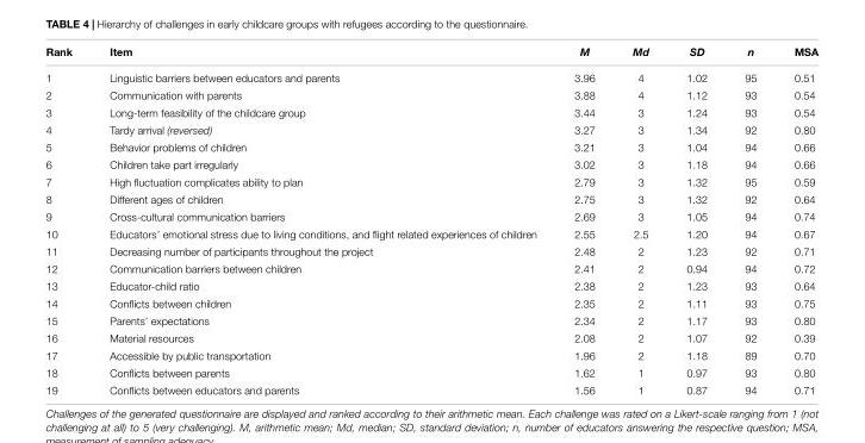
<table><thead><tr><td>Rank</td><td>Item</td><td>M</td><td>Md</td><td>SD</td><td>n</td><td>MSA</td></tr></thead><tbody><tr><td>1</td><td>Linguistic barriers between educators and parents</td><td>3.96</td><td>4</td><td>1.02</td><td>95</td><td>0.51</td></tr><tr><td>2</td><td>Communication with parents</td><td>3.88</td><td>4</td><td>1.12</td><td>93</td><td>0.54</td></tr><tr><td>3</td><td>Long-term feasibility of the childcare group</td><td>3.44</td><td>3</td><td>1.24</td><td>93</td><td>0.54</td></tr><tr><td>4</td><td>Tardy arrival (reversed)</td><td>3.27</td><td>3</td><td>1.34</td><td>92</td><td>0.80</td></tr><tr><td>5</td><td>Behavior problems of children</td><td>3.21</td><td>3</td><td>1.04</td><td>94</td><td>0.66</td></tr><tr><td>6</td><td>Children take part irregularly</td><td>3.02</td><td>3</td><td>1.18</td><td>94</td><td>0.66</td></tr><tr><td>7</td><td>High fluctuation complicates ability to plan</td><td>2.79</td><td>3</td><td>1.32</td><td>95</td><td>0.59</td></tr><tr><td>8</td><td>Different ages of children</td><td>2.75</td><td>3</td><td>1.32</td><td>92</td><td>0.64</td></tr><tr><td>9</td><td>Cross-cultural communication barriers</td><td>2.69</td><td>3</td><td>1.05</td><td>94</td><td>0.74</td></tr><tr><td>10</td><td>Educators’ emotional stress due to living conditions, and flight related experiences of children</td><td>2.55</td><td>2.5</td><td>1.20</td><td>94</td><td>0.67</td></tr><tr><td>11</td><td>Decreasing number of participants throughout the project</td><td>2.48</td><td>2</td><td>1.23</td><td>92</td><td>0.71</td></tr><tr><td>12</td><td>Communication barriers between children</td><td>2.41</td><td>2</td><td>0.94</td><td>94</td><td>0.72</td></tr><tr><td>13</td><td>Educator-child ratio</td><td>2.38</td><td>2</td><td>1.23</td><td>93</td><td>0.64</td></tr><tr><td>14</td><td>Conflicts between children</td><td>2.35</td><td>2</td><td>1.11</td><td>93</td><td>0.75</td></tr><tr><td>15</td><td>Parents’ expectations</td><td>2.34</td><td>2</td><td>1.17</td><td>93</td><td>0.80</td></tr><tr><td>16</td><td>Material resources</td><td>2.08</td><td>2</td><td>1.07</td><td>92</td><td>0.39</td></tr><tr><td>17</td><td>Accessible by public transportation</td><td>1.96</td><td>2</td><td>1.18</td><td>89</td><td>0.70</td></tr><tr><td>18</td><td>Conflicts between parents</td><td>1.62</td><td>1</td><td>0.97</td><td>93</td><td>0.80</td></tr><tr><td>19</td><td>Conflicts between educators and parents</td><td>1.56</td><td>1</td><td>0.87</td><td>94</td><td>0.71</td></tr></tbody></table>